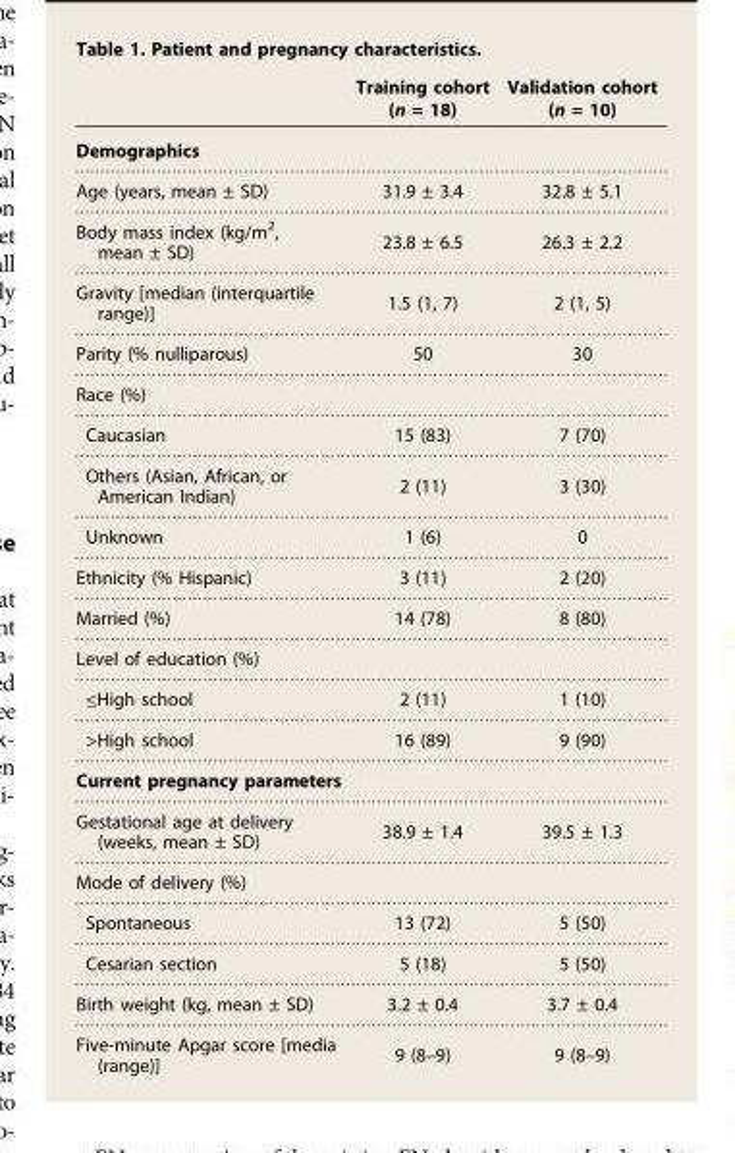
<table><thead><tr><td></td><td>Training cohort (n = 18)</td><td>Validation cohort (n = 10)</td></tr></thead><tbody><tr><td colspan="3">Demographics</td></tr><tr><td>Age (years, mean ± SD)</td><td>31.9 ± 3.4</td><td>32.8 ± 5.1</td></tr><tr><td>Body mass index (kg/m<sup>2</sup>, mean ± SD)</td><td>23.8 ± 6.5</td><td>26.3 ± 2.2</td></tr><tr><td>Gravity [median (interquartile range)]</td><td>1.5 (1, 7)</td><td>2 (1, 5)</td></tr><tr><td>Parity (% nulliparous)</td><td>50</td><td>30</td></tr><tr><td colspan="3">Race (%)</td></tr><tr><td>Caucasian</td><td>15 (83)</td><td>7 (70)</td></tr><tr><td>Others (Asian, African, or American Indian)</td><td>2 (11)</td><td>3 (30)</td></tr><tr><td>Unknown</td><td>1 (6)</td><td>0</td></tr><tr><td>Ethnicity (% Hispanic)</td><td>3 (11)</td><td>2 (20)</td></tr><tr><td>Married (%)</td><td>14 (78)</td><td>8 (80)</td></tr><tr><td colspan="3">Level of education (%)</td></tr><tr><td>≤High school</td><td>2 (11)</td><td>1 (10)</td></tr><tr><td>&gt;High school</td><td>16 (89)</td><td>9 (90)</td></tr><tr><td colspan="3">Current pregnancy parameters</td></tr><tr><td>Gestational age at delivery (weeks, mean ± SD)</td><td>38.9 ± 1.4</td><td>39.5 ± 1.3</td></tr><tr><td colspan="3">Mode of delivery (%)</td></tr><tr><td>Spontaneous</td><td>13 (72)</td><td>5 (50)</td></tr><tr><td>Cesarian section</td><td>5 (18)</td><td>5 (50)</td></tr><tr><td>Birth weight (kg, mean ± SD)</td><td>3.2 ± 0.4</td><td>3.7 ± 0.4</td></tr><tr><td>Five-minute Apgar score [media (range)]</td><td>9 (8–9)</td><td>9 (8–9)</td></tr></tbody></table>